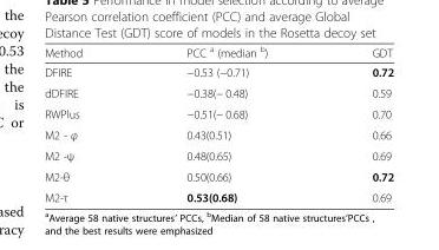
<table><thead><tr><td>Method</td><td>PCC <sup>a</sup> (median <sup>b</sup>)</td><td>GDT</td></tr></thead><tbody><tr><td>DFIRE</td><td>−0.53 (−0.71)</td><td>0.72</td></tr><tr><td>dDFIRE</td><td>−0.38(− 0.48)</td><td>0.59</td></tr><tr><td>RWPlus</td><td>−0.51(− 0.68)</td><td>0.70</td></tr><tr><td>M2 - φ</td><td>0.43(0.51)</td><td>0.66</td></tr><tr><td>M2 -ψ</td><td>0.48(0.65)</td><td>0.69</td></tr><tr><td>M2-θ</td><td>0.50(0.66)</td><td>0.72</td></tr><tr><td>M2-τ</td><td>0.53(0.68)</td><td>0.69</td></tr></tbody></table>